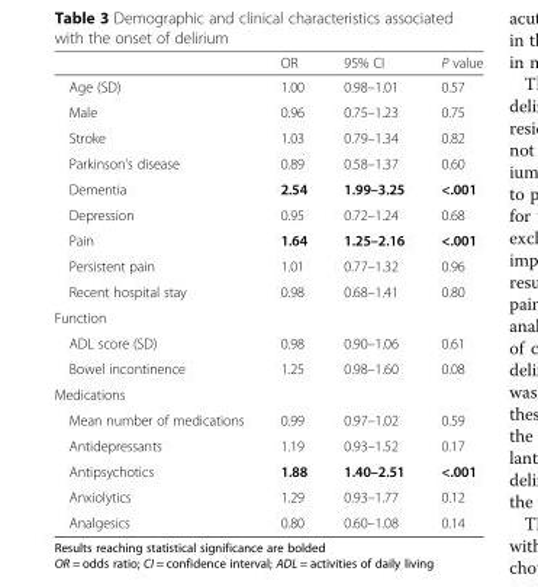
<table><thead><tr><td></td><td>OR</td><td>95% CI</td><td>P value</td></tr></thead><tbody><tr><td>Age (SD)</td><td>1.00</td><td>0.98–1.01</td><td>0.57</td></tr><tr><td>Male</td><td>0.96</td><td>0.75–1.23</td><td>0.75</td></tr><tr><td>Stroke</td><td>1.03</td><td>0.79–1.34</td><td>0.82</td></tr><tr><td>Parkinson’s disease</td><td>0.89</td><td>0.58–1.37</td><td>0.60</td></tr><tr><td>Dementia</td><td>2.54</td><td>1.99–3.25</td><td>&lt;.001</td></tr><tr><td>Depression</td><td>0.95</td><td>0.72–1.24</td><td>0.68</td></tr><tr><td>Pain</td><td>1.64</td><td>1.25–2.16</td><td>&lt;.001</td></tr><tr><td>Persistent pain</td><td>1.01</td><td>0.77–1.32</td><td>0.96</td></tr><tr><td>Recent hospital stay</td><td>0.98</td><td>0.68–1.41</td><td>0.80</td></tr><tr><td colspan="4">Function</td></tr><tr><td>ADL score (SD)</td><td>0.98</td><td>0.90–1.06</td><td>0.61</td></tr><tr><td>Bowel incontinence</td><td>1.25</td><td>0.98–1.60</td><td>0.08</td></tr><tr><td colspan="4">Medications</td></tr><tr><td>Mean number of medications</td><td>0.99</td><td>0.97–1.02</td><td>0.59</td></tr><tr><td>Antidepressants</td><td>1.19</td><td>0.93–1.52</td><td>0.17</td></tr><tr><td>Antipsychotics</td><td>1.88</td><td>1.40–2.51</td><td>&lt;.001</td></tr><tr><td>Anxiolytics</td><td>1.29</td><td>0.93–1.77</td><td>0.12</td></tr><tr><td>Analgesics</td><td>0.80</td><td>0.60–1.08</td><td>0.14</td></tr></tbody></table>